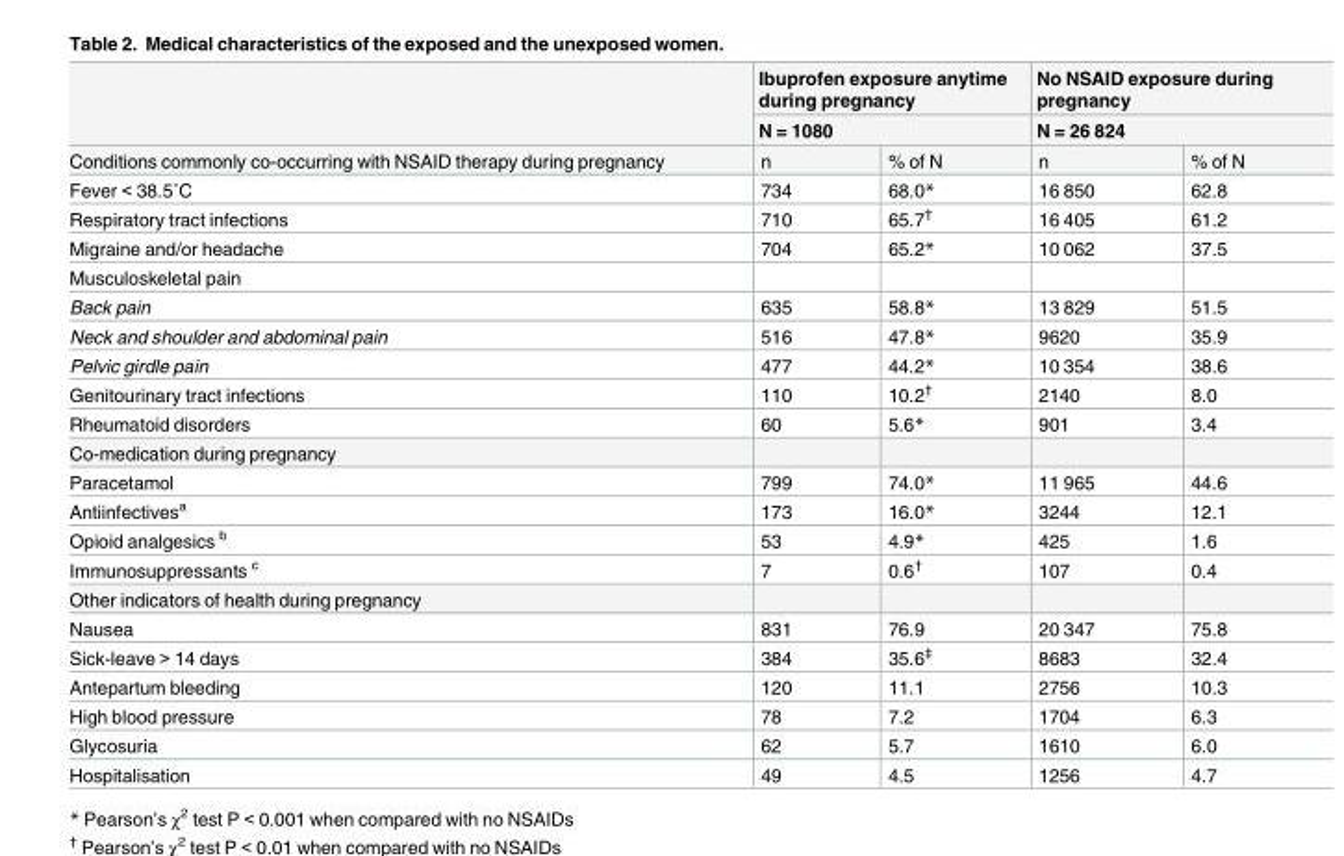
<table><thead><tr><td rowspan="3">Conditions commonly co-occurring with NSAID therapy during pregnancy</td><td rowspan="2" colspan="2">Ibuprofen exposure anytime during pregnancy N = 1080</td><td rowspan="2" colspan="2">No NSAID exposure during pregnancy N = 26 824</td></tr><tr></tr><tr><td>n</td><td>% of N</td><td>n</td><td>% of N</td></tr></thead><tbody><tr><td>Fever &lt; 38.5˚C</td><td>734</td><td>68.0*</td><td>16 850</td><td>62.8</td></tr><tr><td>Respiratory tract infections</td><td>710</td><td>65.7<sup>†</sup></td><td>16 405</td><td>61.2</td></tr><tr><td>Migraine and/or headache</td><td>704</td><td>65.2*</td><td>10 062</td><td>37.5</td></tr><tr><td colspan="5">Musculoskeletal pain</td></tr><tr><td>Back pain</td><td>635</td><td>58.8*</td><td>13 829</td><td>51.5</td></tr><tr><td>Neck and shoulder and abdominal pain</td><td>516</td><td>47.8*</td><td>9620</td><td>35.9</td></tr><tr><td>Pelvic girdle pain</td><td>477</td><td>44.2*</td><td>10 354</td><td>38.6</td></tr><tr><td>Genitourinary tract infections</td><td>110</td><td>10.2<sup>†</sup></td><td>2140</td><td>8.0</td></tr><tr><td>Rheumatoid disorders</td><td>60</td><td>5.6*</td><td>901</td><td>3.4</td></tr><tr><td colspan="5">Co-medication during pregnancy</td></tr><tr><td>Paracetamol</td><td>799</td><td>74.0*</td><td>11 965</td><td>44.6</td></tr><tr><td>Antiinfectives<sup>a</sup></td><td>173</td><td>16.0*</td><td>3244</td><td>12.1</td></tr><tr><td>Opioid analgesics <sup>b</sup></td><td>53</td><td>4.9*</td><td>425</td><td>1.6</td></tr><tr><td>Immunosuppressants <sup>c</sup></td><td>7</td><td>0.6<sup>†</sup></td><td>107</td><td>0.4</td></tr><tr><td colspan="5">Other indicators of health during pregnancy</td></tr><tr><td>Nausea</td><td>831</td><td>76.9</td><td>20 347</td><td>75.8</td></tr><tr><td>Sick-leave &gt; 14 days</td><td>384</td><td>35.6<sup>‡</sup></td><td>8683</td><td>32.4</td></tr><tr><td>Antepartum bleeding</td><td>120</td><td>11.1</td><td>2756</td><td>10.3</td></tr><tr><td>High blood pressure</td><td>78</td><td>7.2</td><td>1704</td><td>6.3</td></tr><tr><td>Glycosuria</td><td>62</td><td>5.7</td><td>1610</td><td>6.0</td></tr><tr><td>Hospitalisation</td><td>49</td><td>4.5</td><td>1256</td><td>4.7</td></tr></tbody></table>